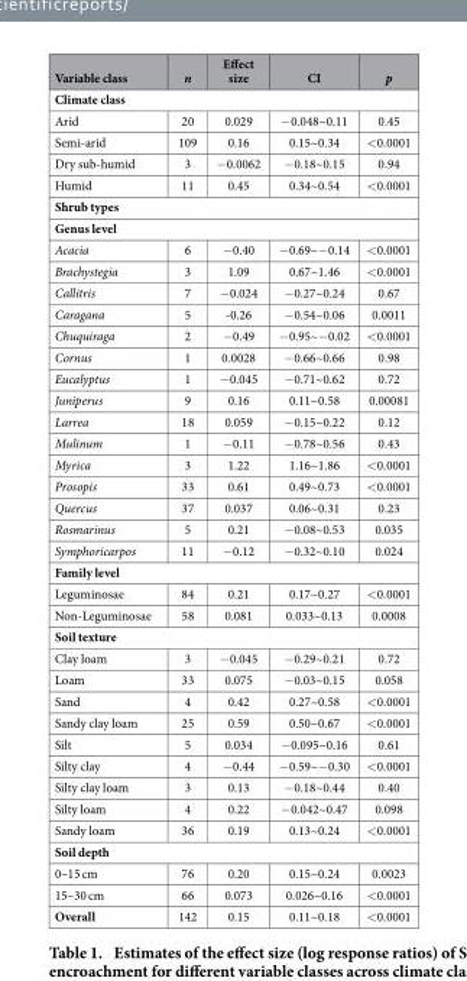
<table><thead><tr><td>Variable class</td><td>n</td><td>Effect size</td><td>CI</td><td>p</td></tr></thead><tbody><tr><td colspan="5">Climate class</td></tr><tr><td>Arid</td><td>20</td><td>0.029</td><td>− 0.048~0.11</td><td>0.45</td></tr><tr><td>Semi-arid</td><td>109</td><td>0.16</td><td>0.15~0.34</td><td>&lt; 0.0001</td></tr><tr><td>Dry sub-humid</td><td>3</td><td>− 0.0062</td><td>− 0.18~0.15</td><td>0.94</td></tr><tr><td>Humid</td><td>11</td><td>0.45</td><td>0.34~0.54</td><td>&lt; 0.0001</td></tr><tr><td colspan="5">Shrub types</td></tr><tr><td colspan="5">Genus level</td></tr><tr><td>Acacia</td><td>6</td><td>− 0.40</td><td>− 0.69~− 0.14</td><td>&lt; 0.0001</td></tr><tr><td>Brachystegia</td><td>3</td><td>1.09</td><td>0.67~1.46</td><td>&lt; 0.0001</td></tr><tr><td>Callitris</td><td>7</td><td>− 0.024</td><td>− 0.27~0.24</td><td>0.67</td></tr><tr><td>Caragana</td><td>5</td><td>-0.26</td><td>− 0.54~0.06</td><td>0.0011</td></tr><tr><td>Chuquiraga</td><td>2</td><td>− 0.49</td><td>− 0.95~− 0.02</td><td>&lt; 0.0001</td></tr><tr><td>Cornus</td><td>1</td><td>0.0028</td><td>− 0.66~0.66</td><td>0.98</td></tr><tr><td>Eucalyptus</td><td>1</td><td>− 0.045</td><td>− 0.71~0.62</td><td>0.72</td></tr><tr><td>Juniperus</td><td>9</td><td>0.16</td><td>0.11~0.58</td><td>0.00081</td></tr><tr><td>Larrea</td><td>18</td><td>0.059</td><td>− 0.15~0.22</td><td>0.12</td></tr><tr><td>Mulinum</td><td>1</td><td>− 0.11</td><td>− 0.78~0.56</td><td>0.43</td></tr><tr><td>Myrica</td><td>3</td><td>1.22</td><td>1.16~1.86</td><td>&lt; 0.0001</td></tr><tr><td>Prosopis</td><td>33</td><td>0.61</td><td>0.49~0.73</td><td>&lt; 0.0001</td></tr><tr><td>Quercus</td><td>37</td><td>0.037</td><td>0.06~0.31</td><td>0.23</td></tr><tr><td>Rosmarinus</td><td>5</td><td>0.21</td><td>− 0.08~0.53</td><td>0.035</td></tr><tr><td>Symphoricarpos</td><td>11</td><td>− 0.12</td><td>− 0.32~0.10</td><td>0.024</td></tr><tr><td colspan="5">Family level</td></tr><tr><td>Leguminosae</td><td>84</td><td>0.21</td><td>0.17~0.27</td><td>&lt; 0.0001</td></tr><tr><td>Non-Leguminosae</td><td>58</td><td>0.081</td><td>0.033~0.13</td><td>0.0008</td></tr><tr><td colspan="5">Soil texture</td></tr><tr><td>Clay loam</td><td>3</td><td>− 0.045</td><td>− 0.29~0.21</td><td>0.72</td></tr><tr><td>Loam</td><td>33</td><td>0.075</td><td>− 0.03~0.15</td><td>0.058</td></tr><tr><td>Sand</td><td>4</td><td>0.42</td><td>0.27~0.58</td><td>&lt; 0.0001</td></tr><tr><td>Sandy clay loam</td><td>25</td><td>0.59</td><td>0.50~0.67</td><td>&lt; 0.0001</td></tr><tr><td>Silt</td><td>5</td><td>0.034</td><td>− 0.095~0.16</td><td>0.61</td></tr><tr><td>Silty clay</td><td>4</td><td>− 0.44</td><td>− 0.59~− 0.30</td><td>&lt; 0.0001</td></tr><tr><td>Silty clay loam</td><td>3</td><td>0.13</td><td>− 0.18~0.44</td><td>0.40</td></tr><tr><td>Silty loam</td><td>4</td><td>0.22</td><td>− 0.042~0.47</td><td>0.098</td></tr><tr><td>Sandy loam</td><td>36</td><td>0.19</td><td>0.13~0.24</td><td>&lt; 0.0001</td></tr><tr><td colspan="5">Soil depth</td></tr><tr><td>0–15 cm</td><td>76</td><td>0.20</td><td>0.15~0.24</td><td>0.0023</td></tr><tr><td>15–30 cm</td><td>66</td><td>0.073</td><td>0.026~0.16</td><td>&lt; 0.0001</td></tr><tr><td>Overall</td><td>142</td><td>0.15</td><td>0.11~0.18</td><td>&lt; 0.0001</td></tr></tbody></table>